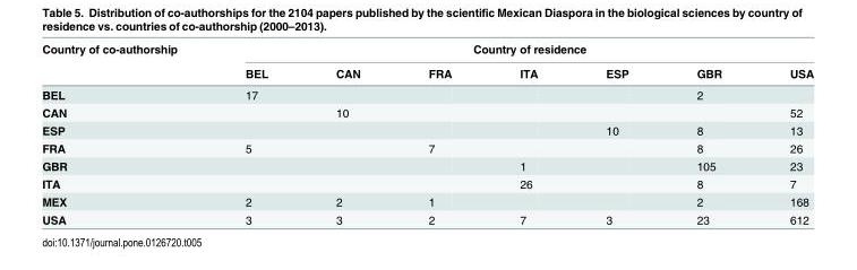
<table><thead><tr><td rowspan="2">Country of co-authorship</td><td colspan="7">Country of residence</td></tr><tr><td>BEL</td><td>CAN</td><td>FRA</td><td>ITA</td><td>ESP</td><td>GBR</td><td>USA</td></tr></thead><tbody><tr><td>BEL</td><td>17</td><td></td><td></td><td></td><td></td><td>2</td><td></td></tr><tr><td>CAN</td><td></td><td>10</td><td></td><td></td><td></td><td></td><td>52</td></tr><tr><td>ESP</td><td></td><td></td><td></td><td></td><td>10</td><td>8</td><td>13</td></tr><tr><td>FRA</td><td>5</td><td></td><td>7</td><td></td><td></td><td>8</td><td>26</td></tr><tr><td>GBR</td><td></td><td></td><td></td><td>1</td><td></td><td>105</td><td>23</td></tr><tr><td>ITA</td><td></td><td></td><td></td><td>26</td><td></td><td>8</td><td>7</td></tr><tr><td>MEX</td><td>2</td><td>2</td><td>1</td><td></td><td></td><td>2</td><td>168</td></tr><tr><td>USA</td><td>3</td><td>3</td><td>2</td><td>7</td><td>3</td><td>23</td><td>612</td></tr></tbody></table>